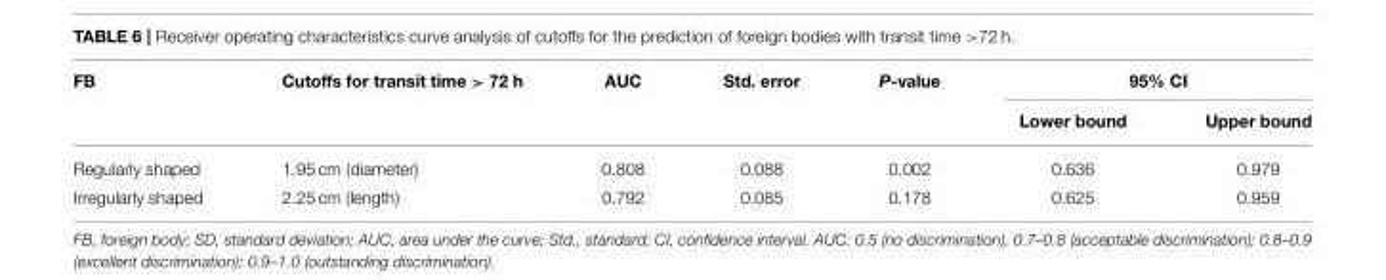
<table><thead><tr><td rowspan="2">FB</td><td rowspan="2">Cutoffs for transit time &gt; 72 h</td><td rowspan="2">AUC</td><td rowspan="2">Std. error</td><td rowspan="2">P-value</td><td colspan="2">95% CI</td></tr><tr><td>Lower bound</td><td>Upper bound</td></tr></thead><tbody><tr><td>Regularly shaped</td><td>1.95 cm (diameter)</td><td>0.808</td><td>0.088</td><td>0.002</td><td>0.636</td><td>0.979</td></tr><tr><td>Irregularly shaped</td><td>2.25 cm (length)</td><td>0.792</td><td>0.085</td><td>0.178</td><td>0.625</td><td>0.959</td></tr></tbody></table>